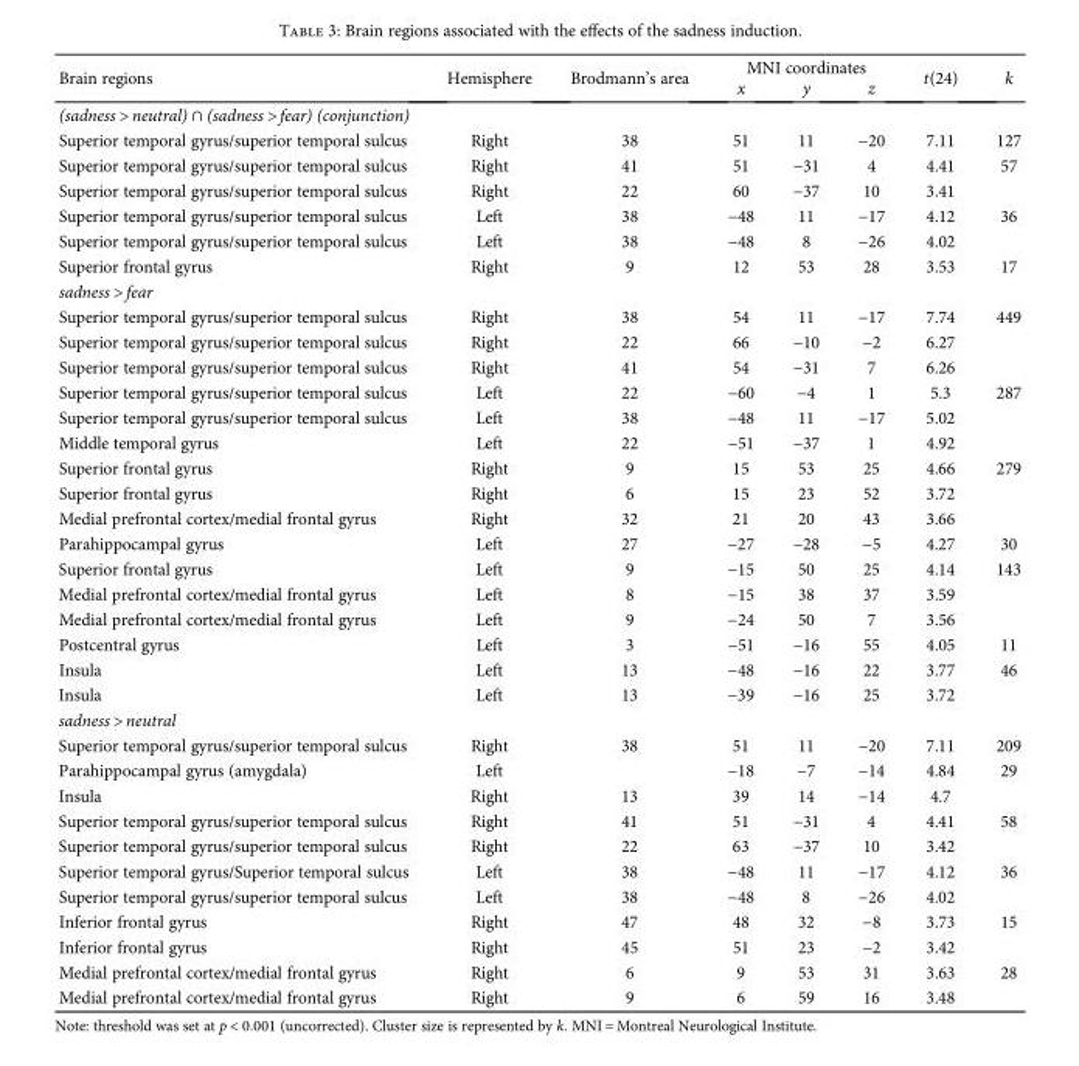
<table><thead><tr><td rowspan="2">Brain regions</td><td rowspan="2">Hemisphere</td><td rowspan="2">Brodmann’s area</td><td colspan="3">MNI coordinates</td><td rowspan="2">t(24)</td><td rowspan="2">k</td></tr><tr><td>x</td><td>y</td><td>z</td></tr></thead><tbody><tr><td colspan="8">(sadness &gt; neutral) ∩ (sadness &gt; fear) (conjunction)</td></tr><tr><td>Superior temporal gyrus/superior temporal sulcus</td><td>Right</td><td>38</td><td>51</td><td>11</td><td>−20</td><td>7.11</td><td>127</td></tr><tr><td>Superior temporal gyrus/superior temporal sulcus</td><td>Right</td><td>41</td><td>51</td><td>−31</td><td>4</td><td>4.41</td><td>57</td></tr><tr><td>Superior temporal gyrus/superior temporal sulcus</td><td>Right</td><td>22</td><td>60</td><td>−37</td><td>10</td><td>3.41</td><td></td></tr><tr><td>Superior temporal gyrus/superior temporal sulcus</td><td>Left</td><td>38</td><td>−48</td><td>11</td><td>−17</td><td>4.12</td><td>36</td></tr><tr><td>Superior temporal gyrus/superior temporal sulcus</td><td>Left</td><td>38</td><td>−48</td><td>8</td><td>−26</td><td>4.02</td><td></td></tr><tr><td>Superior frontal gyrus</td><td>Right</td><td>9</td><td>12</td><td>53</td><td>28</td><td>3.53</td><td>17</td></tr><tr><td colspan="8">sadness &gt; fear</td></tr><tr><td>Superior temporal gyrus/superior temporal sulcus</td><td>Right</td><td>38</td><td>54</td><td>11</td><td>−17</td><td>7.74</td><td>449</td></tr><tr><td>Superior temporal gyrus/superior temporal sulcus</td><td>Right</td><td>22</td><td>66</td><td>−10</td><td>−2</td><td>6.27</td><td></td></tr><tr><td>Superior temporal gyrus/superior temporal sulcus</td><td>Right</td><td>41</td><td>54</td><td>−31</td><td>7</td><td>6.26</td><td></td></tr><tr><td>Superior temporal gyrus/superior temporal sulcus</td><td>Left</td><td>22</td><td>−60</td><td>−4</td><td>1</td><td>5.3</td><td>287</td></tr><tr><td>Superior temporal gyrus/superior temporal sulcus</td><td>Left</td><td>38</td><td>−48</td><td>11</td><td>−17</td><td>5.02</td><td></td></tr><tr><td>Middle temporal gyrus</td><td>Left</td><td>22</td><td>−51</td><td>−37</td><td>1</td><td>4.92</td><td></td></tr><tr><td>Superior frontal gyrus</td><td>Right</td><td>9</td><td>15</td><td>53</td><td>25</td><td>4.66</td><td>279</td></tr><tr><td>Superior frontal gyrus</td><td>Right</td><td>6</td><td>15</td><td>23</td><td>52</td><td>3.72</td><td></td></tr><tr><td>Medial prefrontal cortex/medial frontal gyrus</td><td>Right</td><td>32</td><td>21</td><td>20</td><td>43</td><td>3.66</td><td></td></tr><tr><td>Parahippocampal gyrus</td><td>Left</td><td>27</td><td>−27</td><td>−28</td><td>−5</td><td>4.27</td><td>30</td></tr><tr><td>Superior frontal gyrus</td><td>Left</td><td>9</td><td>−15</td><td>50</td><td>25</td><td>4.14</td><td>143</td></tr><tr><td>Medial prefrontal cortex/medial frontal gyrus</td><td>Left</td><td>8</td><td>−15</td><td>38</td><td>37</td><td>3.59</td><td></td></tr><tr><td>Medial prefrontal cortex/medial frontal gyrus</td><td>Left</td><td>9</td><td>−24</td><td>50</td><td>7</td><td>3.56</td><td></td></tr><tr><td>Postcentral gyrus</td><td>Left</td><td>3</td><td>−51</td><td>−16</td><td>55</td><td>4.05</td><td>11</td></tr><tr><td>Insula</td><td>Left</td><td>13</td><td>−48</td><td>−16</td><td>22</td><td>3.77</td><td>46</td></tr><tr><td>Insula</td><td>Left</td><td>13</td><td>−39</td><td>−16</td><td>25</td><td>3.72</td><td></td></tr><tr><td colspan="8">sadness &gt; neutral</td></tr><tr><td>Superior temporal gyrus/superior temporal sulcus</td><td>Right</td><td>38</td><td>51</td><td>11</td><td>−20</td><td>7.11</td><td>209</td></tr><tr><td>Parahippocampal gyrus (amygdala)</td><td>Left</td><td></td><td>−18</td><td>−7</td><td>−14</td><td>4.84</td><td>29</td></tr><tr><td>Insula</td><td>Right</td><td>13</td><td>39</td><td>14</td><td>−14</td><td>4.7</td><td></td></tr><tr><td>Superior temporal gyrus/superior temporal sulcus</td><td>Right</td><td>41</td><td>51</td><td>−31</td><td>4</td><td>4.41</td><td>58</td></tr><tr><td>Superior temporal gyrus/superior temporal sulcus</td><td>Right</td><td>22</td><td>63</td><td>−37</td><td>10</td><td>3.42</td><td></td></tr><tr><td>Superior temporal gyrus/Superior temporal sulcus</td><td>Left</td><td>38</td><td>−48</td><td>11</td><td>−17</td><td>4.12</td><td>36</td></tr><tr><td>Superior temporal gyrus/superior temporal sulcus</td><td>Left</td><td>38</td><td>−48</td><td>8</td><td>−26</td><td>4.02</td><td></td></tr><tr><td>Inferior frontal gyrus</td><td>Right</td><td>47</td><td>48</td><td>32</td><td>−8</td><td>3.73</td><td>15</td></tr><tr><td>Inferior frontal gyrus</td><td>Right</td><td>45</td><td>51</td><td>23</td><td>−2</td><td>3.42</td><td></td></tr><tr><td>Medial prefrontal cortex/medial frontal gyrus</td><td>Right</td><td>6</td><td>9</td><td>53</td><td>31</td><td>3.63</td><td>28</td></tr><tr><td>Medial prefrontal cortex/medial frontal gyrus</td><td>Right</td><td>9</td><td>6</td><td>59</td><td>16</td><td>3.48</td><td></td></tr></tbody></table>